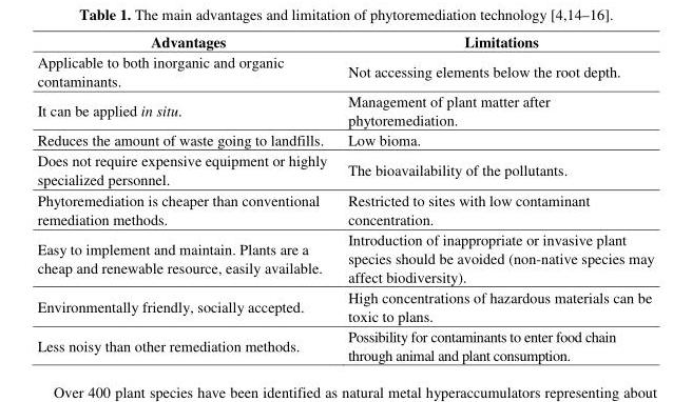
<table><thead><tr><td>Advantages</td><td>Limitations</td></tr></thead><tbody><tr><td>Applicable to both inorganic and organic contaminants.</td><td>Not accessing elements below the root depth.</td></tr><tr><td>It can be applied in situ.</td><td>Management of plant matter after phytoremediation.</td></tr><tr><td>Reduces the amount of waste going to landfills.</td><td>Low bioma.</td></tr><tr><td>Does not require expensive equipment or highly specialized personnel.</td><td>The bioavailability of the pollutants.</td></tr><tr><td>Phytoremediation is cheaper than conventional remediation methods.</td><td>Restricted to sites with low contaminant concentration.</td></tr><tr><td>Easy to implement and maintain. Plants are a cheap and renewable resource, easily available.</td><td>Introduction of inappropriate or invasive plant species should be avoided (non-native species may affect biodiversity).</td></tr><tr><td>Environmentally friendly, socially accepted.</td><td>High concentrations of hazardous materials can be toxic to plans.</td></tr><tr><td>Less noisy than other remediation methods.</td><td>Possibility for contaminants to enter food chain through animal and plant consumption.</td></tr></tbody></table>